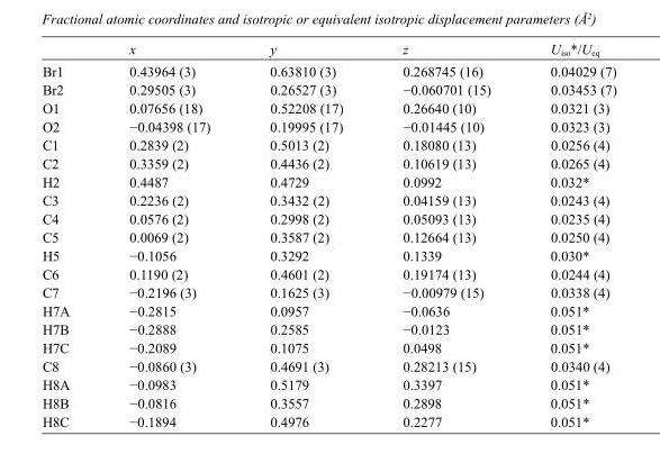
<table><thead><tr><td></td><td>x</td><td>y</td><td>z</td><td>U<sub>iso</sub>*/U<sub>eq</sub></td></tr></thead><tbody><tr><td>Br1</td><td>0.43964 (3)</td><td>0.63810 (3)</td><td>0.268745 (16)</td><td>0.04029 (7)</td></tr><tr><td>Br2</td><td>0.29505 (3)</td><td>0.26527 (3)</td><td>−0.060701 (15)</td><td>0.03453 (7)</td></tr><tr><td>O1</td><td>0.07656 (18)</td><td>0.52208 (17)</td><td>0.26640 (10)</td><td>0.0321 (3)</td></tr><tr><td>O2</td><td>−0.04398 (17)</td><td>0.19995 (17)</td><td>−0.01445 (10)</td><td>0.0323 (3)</td></tr><tr><td>C1</td><td>0.2839 (2)</td><td>0.5013 (2)</td><td>0.18080 (13)</td><td>0.0256 (4)</td></tr><tr><td>C2</td><td>0.3359 (2)</td><td>0.4436 (2)</td><td>0.10619 (13)</td><td>0.0265 (4)</td></tr><tr><td>H2</td><td>0.4487</td><td>0.4729</td><td>0.0992</td><td>0.032*</td></tr><tr><td>C3</td><td>0.2236 (2)</td><td>0.3432 (2)</td><td>0.04159 (13)</td><td>0.0243 (4)</td></tr><tr><td>C4</td><td>0.0576 (2)</td><td>0.2998 (2)</td><td>0.05093 (13)</td><td>0.0235 (4)</td></tr><tr><td>C5</td><td>0.0069 (2)</td><td>0.3587 (2)</td><td>0.12664 (13)</td><td>0.0250 (4)</td></tr><tr><td>H5</td><td>−0.1056</td><td>0.3292</td><td>0.1339</td><td>0.030*</td></tr><tr><td>C6</td><td>0.1190 (2)</td><td>0.4601 (2)</td><td>0.19174 (13)</td><td>0.0244 (4)</td></tr><tr><td>C7</td><td>−0.2196 (3)</td><td>0.1625 (3)</td><td>−0.00979 (15)</td><td>0.0338 (4)</td></tr><tr><td>H7A</td><td>−0.2815</td><td>0.0957</td><td>−0.0636</td><td>0.051*</td></tr><tr><td>H7B</td><td>−0.2888</td><td>0.2585</td><td>−0.0123</td><td>0.051*</td></tr><tr><td>H7C</td><td>−0.2089</td><td>0.1075</td><td>0.0498</td><td>0.051*</td></tr><tr><td>C8</td><td>−0.0860 (3)</td><td>0.4691 (3)</td><td>0.28213 (15)</td><td>0.0340 (4)</td></tr><tr><td>H8A</td><td>−0.0983</td><td>0.5179</td><td>0.3397</td><td>0.051*</td></tr><tr><td>H8B</td><td>−0.0816</td><td>0.3557</td><td>0.2898</td><td>0.051*</td></tr><tr><td>H8C</td><td>−0.1894</td><td>0.4976</td><td>0.2277</td><td>0.051*</td></tr></tbody></table>